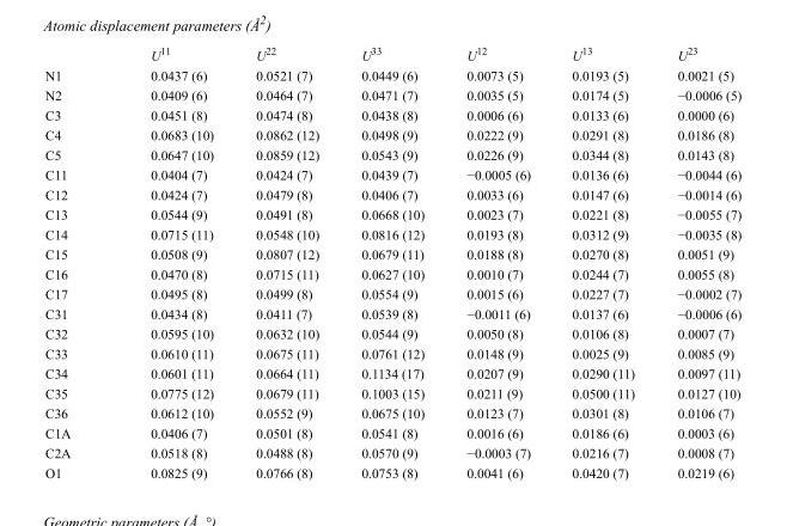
<table><thead><tr><td></td><td>U<sup>11</sup></td><td>U<sup>22</sup></td><td>U<sup>33</sup></td><td>U<sup>12</sup></td><td>U<sup>13</sup></td><td>U<sup>23</sup></td></tr></thead><tbody><tr><td>N1</td><td>0.0437 (6)</td><td>0.0521 (7)</td><td>0.0449 (6)</td><td>0.0073 (5)</td><td>0.0193 (5)</td><td>0.0021 (5)</td></tr><tr><td>N2</td><td>0.0409 (6)</td><td>0.0464 (7)</td><td>0.0471 (7)</td><td>0.0035 (5)</td><td>0.0174 (5)</td><td>−0.0006 (5)</td></tr><tr><td>C3</td><td>0.0451 (8)</td><td>0.0474 (8)</td><td>0.0438 (8)</td><td>0.0006 (6)</td><td>0.0133 (6)</td><td>0.0000 (6)</td></tr><tr><td>C4</td><td>0.0683 (10)</td><td>0.0862 (12)</td><td>0.0498 (9)</td><td>0.0222 (9)</td><td>0.0291 (8)</td><td>0.0186 (8)</td></tr><tr><td>C5</td><td>0.0647 (10)</td><td>0.0859 (12)</td><td>0.0543 (9)</td><td>0.0226 (9)</td><td>0.0344 (8)</td><td>0.0143 (8)</td></tr><tr><td>C11</td><td>0.0404 (7)</td><td>0.0424 (7)</td><td>0.0439 (7)</td><td>−0.0005 (6)</td><td>0.0136 (6)</td><td>−0.0044 (6)</td></tr><tr><td>C12</td><td>0.0424 (7)</td><td>0.0479 (8)</td><td>0.0406 (7)</td><td>0.0033 (6)</td><td>0.0147 (6)</td><td>−0.0014 (6)</td></tr><tr><td>C13</td><td>0.0544 (9)</td><td>0.0491 (8)</td><td>0.0668 (10)</td><td>0.0023 (7)</td><td>0.0221 (8)</td><td>−0.0055 (7)</td></tr><tr><td>C14</td><td>0.0715 (11)</td><td>0.0548 (10)</td><td>0.0816 (12)</td><td>0.0193 (8)</td><td>0.0312 (9)</td><td>−0.0035 (8)</td></tr><tr><td>C15</td><td>0.0508 (9)</td><td>0.0807 (12)</td><td>0.0679 (11)</td><td>0.0188 (8)</td><td>0.0270 (8)</td><td>0.0051 (9)</td></tr><tr><td>C16</td><td>0.0470 (8)</td><td>0.0715 (11)</td><td>0.0627 (10)</td><td>0.0010 (7)</td><td>0.0244 (7)</td><td>0.0055 (8)</td></tr><tr><td>C17</td><td>0.0495 (8)</td><td>0.0499 (8)</td><td>0.0554 (9)</td><td>0.0015 (6)</td><td>0.0227 (7)</td><td>−0.0002 (7)</td></tr><tr><td>C31</td><td>0.0434 (8)</td><td>0.0411 (7)</td><td>0.0539 (8)</td><td>−0.0011 (6)</td><td>0.0137 (6)</td><td>−0.0006 (6)</td></tr><tr><td>C32</td><td>0.0595 (10)</td><td>0.0632 (10)</td><td>0.0544 (9)</td><td>0.0050 (8)</td><td>0.0106 (8)</td><td>0.0007 (7)</td></tr><tr><td>C33</td><td>0.0610 (11)</td><td>0.0675 (11)</td><td>0.0761 (12)</td><td>0.0148 (9)</td><td>0.0025 (9)</td><td>0.0085 (9)</td></tr><tr><td>C34</td><td>0.0601 (11)</td><td>0.0664 (11)</td><td>0.1134 (17)</td><td>0.0207 (9)</td><td>0.0290 (11)</td><td>0.0097 (11)</td></tr><tr><td>C35</td><td>0.0775 (12)</td><td>0.0679 (11)</td><td>0.1003 (15)</td><td>0.0211 (9)</td><td>0.0500 (11)</td><td>0.0127 (10)</td></tr><tr><td>C36</td><td>0.0612 (10)</td><td>0.0552 (9)</td><td>0.0675 (10)</td><td>0.0123 (7)</td><td>0.0301 (8)</td><td>0.0106 (7)</td></tr><tr><td>C1A</td><td>0.0406 (7)</td><td>0.0501 (8)</td><td>0.0541 (8)</td><td>0.0016 (6)</td><td>0.0186 (6)</td><td>0.0003 (6)</td></tr><tr><td>C2A</td><td>0.0518 (8)</td><td>0.0488 (8)</td><td>0.0570 (9)</td><td>−0.0003 (7)</td><td>0.0216 (7)</td><td>0.0008 (7)</td></tr><tr><td>O1</td><td>0.0825 (9)</td><td>0.0766 (8)</td><td>0.0753 (8)</td><td>0.0041 (6)</td><td>0.0420 (7)</td><td>0.0219 (6)</td></tr></tbody></table>